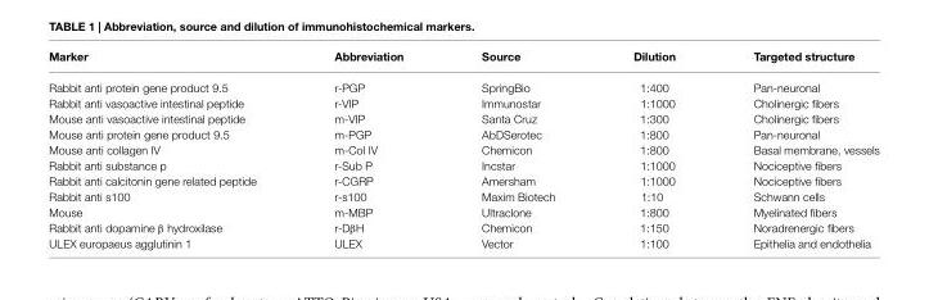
<table><thead><tr><td>Marker</td><td>Abbreviation</td><td>Source</td><td>Dilution</td><td>Targeted structure</td></tr></thead><tbody><tr><td>Rabbit anti protein gene product 9.5</td><td>r-PGP</td><td>SpringBio</td><td>1:400</td><td>Pan-neuronal</td></tr><tr><td>Rabbit anti vasoactive intestinal peptide</td><td>r-VIP</td><td>Immunostar</td><td>1:1000</td><td>Cholinergic fibers</td></tr><tr><td>Mouse anti vasoactive intestinal peptide</td><td>m-VIP</td><td>Santa Cruz</td><td>1:300</td><td>Cholinergic fibers</td></tr><tr><td>Mouse anti protein gene product 9.5</td><td>m-PGP</td><td>AbDSerotec</td><td>1:800</td><td>Pan-neuronal</td></tr><tr><td>Mouse anti collagen IV</td><td>m-Col IV</td><td>Chemicon</td><td>1:800</td><td>Basal membrane, vessels</td></tr><tr><td>Rabbit anti substance p</td><td>r-Sub P</td><td>Incstar</td><td>1:1000</td><td>Nociceptive fibers</td></tr><tr><td>Rabbit anti calcitonin gene related peptide</td><td>r-CGRP</td><td>Amersham</td><td>1:1000</td><td>Nociceptive fibers</td></tr><tr><td>Rabbit anti s100</td><td>r-s100</td><td>Maxim Biotech</td><td>1:10</td><td>Schwann cells</td></tr><tr><td>Mouse</td><td>m-MBP</td><td>Ultraclone</td><td>1:800</td><td>Myelinated fibers</td></tr><tr><td>Rabbit anti dopamine β hydroxilase</td><td>r-DβH</td><td>Chemicon</td><td>1:150</td><td>Noradrenergic fibers</td></tr><tr><td>ULEX europaeus agglutinin 1</td><td>ULEX</td><td>Vector</td><td>1:100</td><td>Epithelia and endothelia</td></tr></tbody></table>